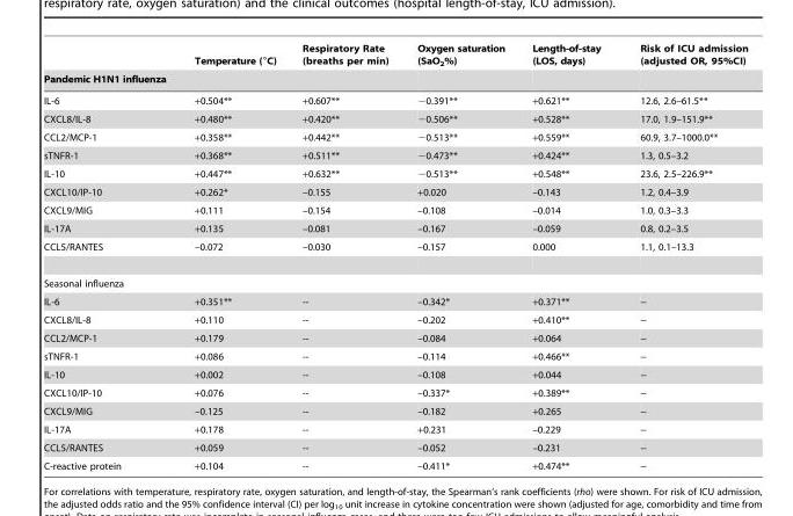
<table><thead><tr><td rowspan="2">Pandemic H1N1 influenza</td><td rowspan="2">Temperature (°C)</td><td rowspan="2">Respiratory Rate (breaths per min)</td><td rowspan="2">Oxygen saturation (SaO<sub>2</sub>%)</td><td rowspan="2">Length-of-stay (LOS, days)</td><td rowspan="2">Risk of ICU admission (adjusted OR, 95%CI)</td></tr><tr></tr></thead><tbody><tr><td>IL-6</td><td>+0.504**</td><td>+0.607**</td><td>−0.391**</td><td>+0.621**</td><td>12.6, 2.6–61.5**</td></tr><tr><td>CXCL8/IL-8</td><td>+0.480**</td><td>+0.420**</td><td>−0.506**</td><td>+0.528**</td><td>17.0, 1.9–151.9**</td></tr><tr><td>CCL2/MCP-1</td><td>+0.358**</td><td>+0.442**</td><td>−0.513**</td><td>+0.559**</td><td>60.9, 3.7–1000.0**</td></tr><tr><td>sTNFR-1</td><td>+0.368**</td><td>+0.511**</td><td>−0.473**</td><td>+0.424**</td><td>1.3, 0.5–3.2</td></tr><tr><td>IL-10</td><td>+0.447**</td><td>+0.632**</td><td>−0.513**</td><td>+0.548**</td><td>23.6, 2.5–226.9**</td></tr><tr><td>CXCL10/IP-10</td><td>+0.262*</td><td>–0.155</td><td>+0.020</td><td>–0.143</td><td>1.2, 0.4–3.9</td></tr><tr><td>CXCL9/MIG</td><td>+0.111</td><td>–0.154</td><td>–0.108</td><td>–0.014</td><td>1.0, 0.3–3.3</td></tr><tr><td>IL-17A</td><td>+0.135</td><td>–0.081</td><td>–0.167</td><td>–0.059</td><td>0.8, 0.2–3.5</td></tr><tr><td>CCL5/RANTES</td><td>–0.072</td><td>–0.030</td><td>–0.157</td><td>0.000</td><td>1.1, 0.1–13.3</td></tr><tr><td colspan="6">Seasonal influenza</td></tr><tr><td>IL-6</td><td>+0.351**</td><td>--</td><td>–0.342*</td><td>+0.371**</td><td>--</td></tr><tr><td>CXCL8/IL-8</td><td>+0.110</td><td>--</td><td>–0.202</td><td>+0.410**</td><td>--</td></tr><tr><td>CCL2/MCP-1</td><td>+0.179</td><td>--</td><td>–0.084</td><td>+0.064</td><td>--</td></tr><tr><td>sTNFR-1</td><td>+0.086</td><td>--</td><td>–0.114</td><td>+0.466**</td><td>--</td></tr><tr><td>IL-10</td><td>+0.002</td><td>--</td><td>–0.108</td><td>+0.044</td><td>--</td></tr><tr><td>CXCL10/IP-10</td><td>+0.076</td><td>--</td><td>–0.337*</td><td>+0.389**</td><td>--</td></tr><tr><td>CXCL9/MIG</td><td>–0.125</td><td>--</td><td>–0.182</td><td>+0.265</td><td>--</td></tr><tr><td>IL-17A</td><td>+0.178</td><td>--</td><td>+0.231</td><td>–0.229</td><td>--</td></tr><tr><td>CCL5/RANTES</td><td>+0.059</td><td>--</td><td>–0.052</td><td>–0.231</td><td>--</td></tr><tr><td>C-reactive protein</td><td>+0.104</td><td>--</td><td>–0.411*</td><td>+0.474**</td><td>--</td></tr></tbody></table>